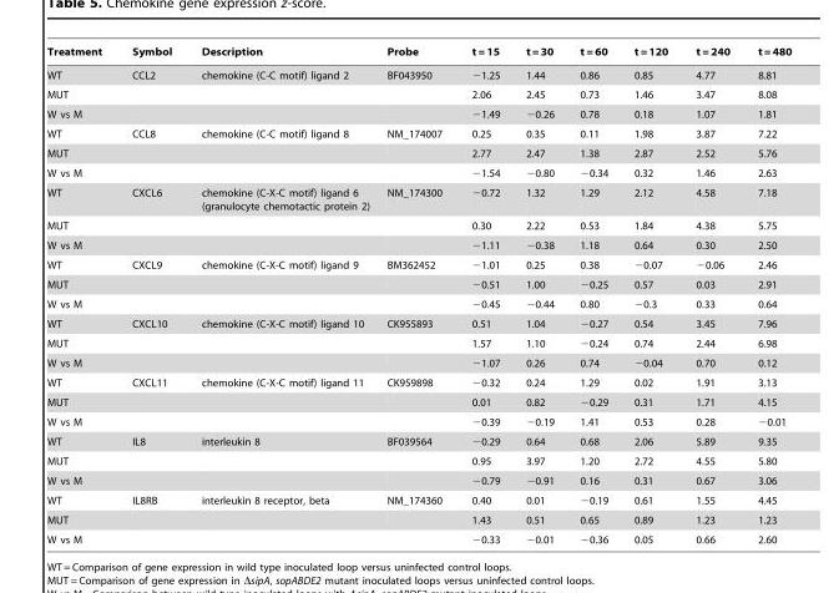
<table><thead><tr><td>Treatment</td><td>Symbol</td><td>Description</td><td>Probe</td><td>t = 15</td><td>t = 30</td><td>t = 60</td><td>t = 120</td><td>t = 240</td><td>t = 480</td></tr></thead><tbody><tr><td>WT</td><td>CCL2</td><td>chemokine (C-C motif) ligand 2</td><td>BF043950</td><td>−1.25</td><td>1.44</td><td>0.86</td><td>0.85</td><td>4.77</td><td>8.81</td></tr><tr><td>MUT</td><td></td><td></td><td></td><td>2.06</td><td>2.45</td><td>0.73</td><td>1.46</td><td>3.47</td><td>8.08</td></tr><tr><td>W vs M</td><td></td><td></td><td></td><td>−1.49</td><td>−0.26</td><td>0.78</td><td>0.18</td><td>1.07</td><td>1.81</td></tr><tr><td>WT</td><td>CCL8</td><td>chemokine (C-C motif) ligand 8</td><td>NM_174007</td><td>0.25</td><td>0.35</td><td>0.11</td><td>1.98</td><td>3.87</td><td>7.22</td></tr><tr><td>MUT</td><td></td><td></td><td></td><td>2.77</td><td>2.47</td><td>1.38</td><td>2.87</td><td>2.52</td><td>5.76</td></tr><tr><td>W vs M</td><td></td><td></td><td></td><td>−1.54</td><td>−0.80</td><td>−0.34</td><td>0.32</td><td>1.46</td><td>2.63</td></tr><tr><td>WT</td><td>CXCL6</td><td>chemokine (C-X-C motif) ligand 6 (granulocyte chemotactic protein 2)</td><td>NM_174300</td><td>−0.72</td><td>1.32</td><td>1.29</td><td>2.12</td><td>4.58</td><td>7.18</td></tr><tr><td>MUT</td><td></td><td></td><td></td><td>0.30</td><td>2.22</td><td>0.53</td><td>1.84</td><td>4.38</td><td>5.75</td></tr><tr><td>W vs M</td><td></td><td></td><td></td><td>−1.11</td><td>−0.38</td><td>1.18</td><td>0.64</td><td>0.30</td><td>2.50</td></tr><tr><td>WT</td><td>CXCL9</td><td>chemokine (C-X-C motif) ligand 9</td><td>BM362452</td><td>−1.01</td><td>0.25</td><td>0.38</td><td>−0.07</td><td>−0.06</td><td>2.46</td></tr><tr><td>MUT</td><td></td><td></td><td></td><td>−0.51</td><td>1.00</td><td>−0.25</td><td>0.57</td><td>0.03</td><td>2.91</td></tr><tr><td>W vs M</td><td></td><td></td><td></td><td>−0.45</td><td>−0.44</td><td>0.80</td><td>−0.3</td><td>0.33</td><td>0.64</td></tr><tr><td>WT</td><td>CXCL10</td><td>chemokine (C-X-C motif) ligand 10</td><td>CK955893</td><td>0.51</td><td>1.04</td><td>−0.27</td><td>0.54</td><td>3.45</td><td>7.96</td></tr><tr><td>MUT</td><td></td><td></td><td></td><td>1.57</td><td>1.10</td><td>−0.24</td><td>0.74</td><td>2.44</td><td>6.98</td></tr><tr><td>W vs M</td><td></td><td></td><td></td><td>−1.07</td><td>0.26</td><td>0.74</td><td>−0.04</td><td>0.70</td><td>0.12</td></tr><tr><td>WT</td><td>CXCL11</td><td>chemokine (C-X-C motif) ligand 11</td><td>CK959898</td><td>−0.32</td><td>0.24</td><td>1.29</td><td>0.02</td><td>1.91</td><td>3.13</td></tr><tr><td>MUT</td><td></td><td></td><td></td><td>0.01</td><td>0.82</td><td>−0.29</td><td>0.31</td><td>1.71</td><td>4.15</td></tr><tr><td>W vs M</td><td></td><td></td><td></td><td>−0.39</td><td>−0.19</td><td>1.41</td><td>0.53</td><td>0.28</td><td>−0.01</td></tr><tr><td>WT</td><td>IL8</td><td>interleukin 8</td><td>BF039564</td><td>−0.29</td><td>0.64</td><td>0.68</td><td>2.06</td><td>5.89</td><td>9.35</td></tr><tr><td>MUT</td><td></td><td></td><td></td><td>0.95</td><td>3.97</td><td>1.20</td><td>2.72</td><td>4.55</td><td>5.80</td></tr><tr><td>W vs M</td><td></td><td></td><td></td><td>−0.79</td><td>−0.91</td><td>0.16</td><td>0.31</td><td>0.67</td><td>3.06</td></tr><tr><td>WT</td><td>IL8RB</td><td>interleukin 8 receptor, beta</td><td>NM_174360</td><td>0.40</td><td>0.01</td><td>−0.19</td><td>0.61</td><td>1.55</td><td>4.45</td></tr><tr><td>MUT</td><td></td><td></td><td></td><td>1.43</td><td>0.51</td><td>0.65</td><td>0.89</td><td>1.23</td><td>1.23</td></tr><tr><td>W vs M</td><td></td><td></td><td></td><td>−0.33</td><td>−0.01</td><td>−0.36</td><td>0.05</td><td>0.66</td><td>2.60</td></tr></tbody></table>